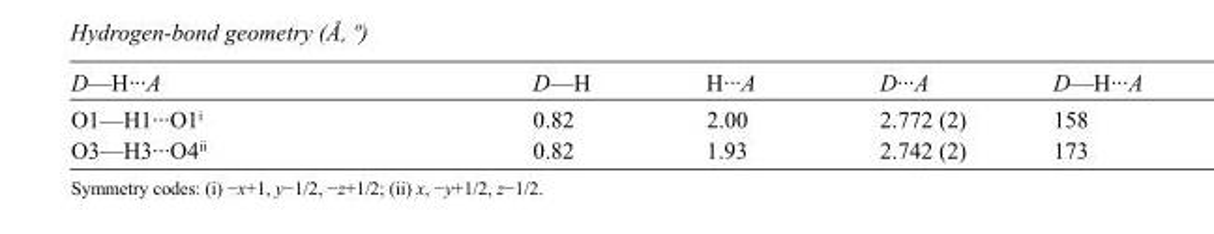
<table><tbody><tr><td>D—H···A</td><td>D—H</td><td>H···A</td><td>D···A</td><td>D—H···A</td></tr><tr><td>O1—H1···O1<sup>i</sup></td><td>0.82</td><td>2.00</td><td>2.772 (2)</td><td>158</td></tr><tr><td>O3—H3···O4<sup>ii</sup></td><td>0.82</td><td>1.93</td><td>2.742 (2)</td><td>173</td></tr></tbody></table>